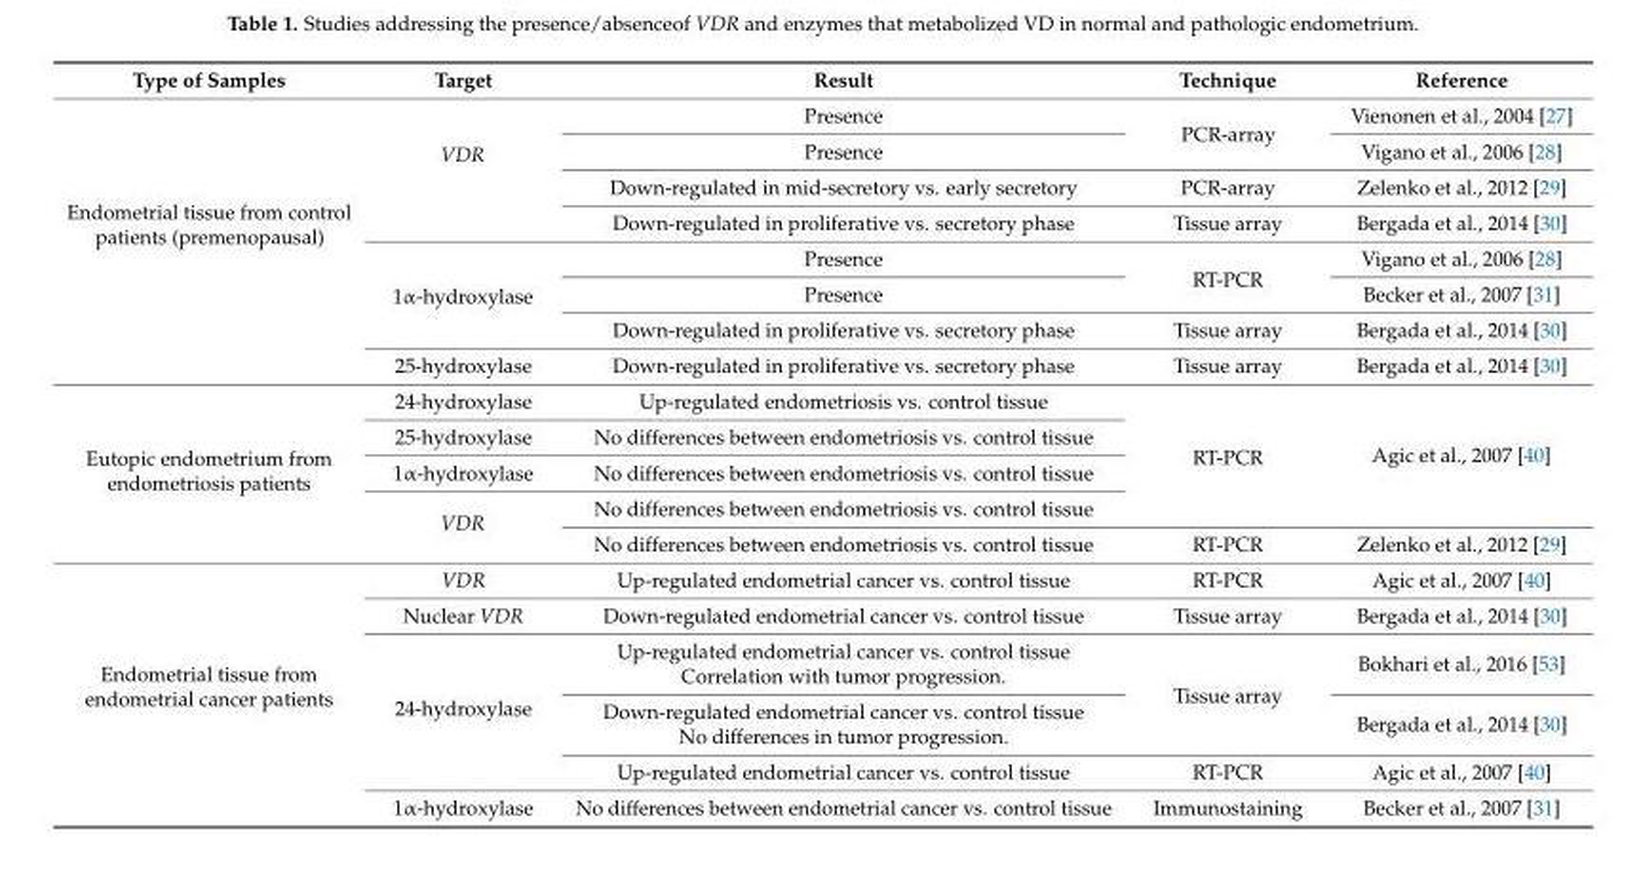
<table><thead><tr><td>Type of Samples</td><td>Target</td><td>Result</td><td>Technique</td><td>Reference</td></tr></thead><tbody><tr><td rowspan="8">Endometrial tissue from control patients (premenopausal)</td><td rowspan="4">VDR</td><td>Presence</td><td rowspan="2">PCR-array</td><td>Vienonen et al., 2004 [27]</td></tr><tr><td>Presence</td><td>Vigano et al., 2006 [28]</td></tr><tr><td>Down-regulated in mid-secretory vs. early secretory</td><td>PCR-array</td><td>Zelenko et al., 2012 [29]</td></tr><tr><td>Down-regulated in proliferative vs. secretory phase</td><td>Tissue array</td><td>Bergada et al., 2014 [30]</td></tr><tr><td rowspan="3">1α-hydroxylase</td><td>Presence</td><td rowspan="2">RT-PCR</td><td>Vigano et al., 2006 [28]</td></tr><tr><td>Presence</td><td>Becker et al., 2007 [31]</td></tr><tr><td>Down-regulated in proliferative vs. secretory phase</td><td>Tissue array</td><td>Bergada et al., 2014 [30]</td></tr><tr><td>25-hydroxylase</td><td>Down-regulated in proliferative vs. secretory phase</td><td>Tissue array</td><td>Bergada et al., 2014 [30]</td></tr><tr><td rowspan="5">Eutopic endometrium from endometriosis patients</td><td>24-hydroxylase</td><td>Up-regulated endometriosis vs. control tissue</td><td rowspan="4">RT-PCR</td><td rowspan="4">Agic et al., 2007 [40]</td></tr><tr><td>25-hydroxylase</td><td>No differences between endometriosis vs. control tissue</td></tr><tr><td>1α-hydroxylase</td><td>No differences between endometriosis vs. control tissue</td></tr><tr><td rowspan="2">VDR</td><td>No differences between endometriosis vs. control tissue</td></tr><tr><td>No differences between endometriosis vs. control tissue</td><td>RT-PCR</td><td>Zelenko et al., 2012 [29]</td></tr><tr><td rowspan="6">Endometrial tissue from endometrial cancer patients</td><td>VDR</td><td>Up-regulated endometrial cancer vs. control tissue</td><td>RT-PCR</td><td>Agic et al., 2007 [40]</td></tr><tr><td>Nuclear VDR</td><td>Down-regulated endometrial cancer vs. control tissue</td><td>Tissue array</td><td>Bergada et al., 2014 [30]</td></tr><tr><td rowspan="3">24-hydroxylase</td><td>Up-regulated endometrial cancer vs. control tissue Correlation with tumor progression.</td><td rowspan="2">Tissue array</td><td>Bokhari et al., 2016 [53]</td></tr><tr><td>Down-regulated endometrial cancer vs. control tissue No differences in tumor progression.</td><td>Bergada et al., 2014 [30]</td></tr><tr><td>Up-regulated endometrial cancer vs. control tissue</td><td>RT-PCR</td><td>Agic et al., 2007 [40]</td></tr><tr><td>1α-hydroxylase</td><td>No differences between endometrial cancer vs. control tissue</td><td>Immunostaining</td><td>Becker et al., 2007 [31]</td></tr></tbody></table>